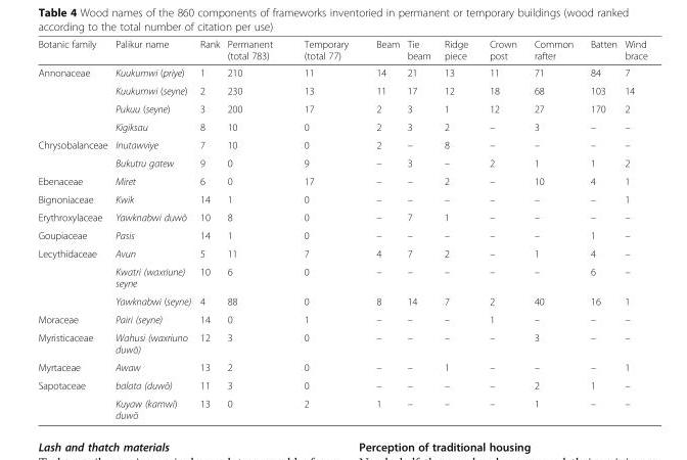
<table><thead><tr><td>Botanic family</td><td>Palikur name</td><td>Rank</td><td>Permanent (total 783)</td><td>Temporary (total 77)</td><td>Beam</td><td>Tie beam</td><td>Ridge piece</td><td>Crown post</td><td>Common rafter</td><td>Batten</td><td>Wind brace</td></tr></thead><tbody><tr><td rowspan="4">Annonaceae</td><td>Kuukumwi (priye)</td><td>1</td><td>210</td><td>11</td><td>14</td><td>21</td><td>13</td><td>11</td><td>71</td><td>84</td><td>7</td></tr><tr><td>Kuukumwi (seyne)</td><td>2</td><td>230</td><td>13</td><td>11</td><td>17</td><td>12</td><td>18</td><td>68</td><td>103</td><td>14</td></tr><tr><td>Pukuu (seyne)</td><td>3</td><td>200</td><td>17</td><td>2</td><td>3</td><td>1</td><td>12</td><td>27</td><td>170</td><td>2</td></tr><tr><td>Kigiksau</td><td>8</td><td>10</td><td>0</td><td>2</td><td>3</td><td>2</td><td>–</td><td>3</td><td>–</td><td>–</td></tr><tr><td rowspan="2">Chrysobalanceae</td><td>Inutawviye</td><td>7</td><td>10</td><td>0</td><td>2</td><td>–</td><td>8</td><td>–</td><td>–</td><td>–</td><td>–</td></tr><tr><td>Bukutru gatew</td><td>9</td><td>0</td><td>9</td><td>–</td><td>3</td><td>–</td><td>2</td><td>1</td><td>1</td><td>2</td></tr><tr><td>Ebenaceae</td><td>Miret</td><td>6</td><td>0</td><td>17</td><td>–</td><td>–</td><td>2</td><td>–</td><td>10</td><td>4</td><td>1</td></tr><tr><td>Bignoniaceae</td><td>Kwik</td><td>14</td><td>1</td><td>0</td><td>–</td><td>–</td><td>–</td><td>–</td><td>–</td><td>–</td><td>1</td></tr><tr><td>Erythroxylaceae</td><td>Yawknabwi duwõ</td><td>10</td><td>8</td><td>0</td><td>–</td><td>7</td><td>1</td><td>–</td><td>–</td><td>–</td><td>–</td></tr><tr><td>Goupiaceae</td><td>Pasis</td><td>14</td><td>1</td><td>0</td><td>–</td><td>–</td><td>–</td><td>–</td><td>–</td><td>1</td><td>–</td></tr><tr><td rowspan="3">Lecythidaceae</td><td>Avun</td><td>5</td><td>11</td><td>7</td><td>4</td><td>7</td><td>2</td><td>–</td><td>1</td><td>4</td><td>–</td></tr><tr><td>Kwatri (waxriune) seyne</td><td>10</td><td>6</td><td>0</td><td>–</td><td>–</td><td>–</td><td>–</td><td>–</td><td>6</td><td>–</td></tr><tr><td>Yawknabwi (seyne)</td><td>4</td><td>88</td><td>0</td><td>8</td><td>14</td><td>7</td><td>2</td><td>40</td><td>16</td><td>1</td></tr><tr><td>Moraceae</td><td>Pairi (seyne)</td><td>14</td><td>0</td><td>1</td><td>–</td><td>–</td><td>–</td><td>1</td><td>–</td><td>–</td><td>–</td></tr><tr><td>Myristicaceae</td><td>Wahusi (waxriuno duwõ)</td><td>12</td><td>3</td><td>0</td><td>–</td><td>–</td><td>–</td><td>–</td><td>3</td><td>–</td><td>–</td></tr><tr><td>Myrtaceae</td><td>Awaw</td><td>13</td><td>2</td><td>0</td><td>–</td><td>–</td><td>1</td><td>–</td><td>–</td><td>–</td><td>1</td></tr><tr><td rowspan="2">Sapotaceae</td><td>balata (duwõ)</td><td>11</td><td>3</td><td>0</td><td>–</td><td>–</td><td>–</td><td>–</td><td>2</td><td>1</td><td>–</td></tr><tr><td>Kuyaw (kamwi) duwõ</td><td>13</td><td>0</td><td>2</td><td>1</td><td>–</td><td>–</td><td>–</td><td>1</td><td>–</td><td>–</td></tr></tbody></table>